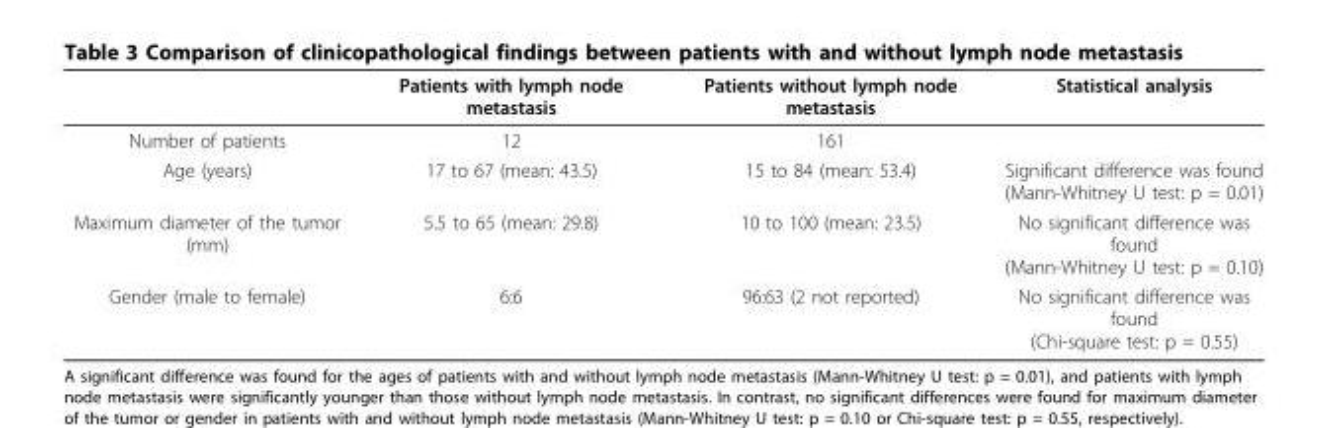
<table><thead><tr><td></td><td>Patients with lymph node metastasis</td><td>Patients without lymph node metastasis</td><td>Statistical analysis</td></tr></thead><tbody><tr><td>Number of patients</td><td>12</td><td>161</td><td></td></tr><tr><td>Age (years)</td><td>17 to 67 (mean: 43.5)</td><td>15 to 84 (mean: 53.4)</td><td>Significant difference was found (Mann-Whitney U test: p = 0.01)</td></tr><tr><td>Maximum diameter of the tumor (mm)</td><td>5.5 to 65 (mean: 29.8)</td><td>10 to 100 (mean: 23.5)</td><td>No significant difference was found (Mann-Whitney U test: p = 0.10)</td></tr><tr><td>Gender (male to female)</td><td>6:6</td><td>96:63 (2 not reported)</td><td>No significant difference was found (Chi-square test: p = 0.55)</td></tr></tbody></table>